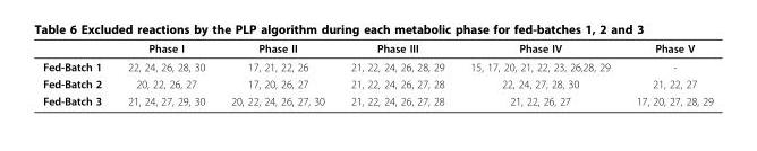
<table><thead><tr><td></td><td>Phase I</td><td>Phase II</td><td>Phase III</td><td>Phase IV</td><td>Phase V</td></tr></thead><tbody><tr><td>Fed-Batch 1</td><td>22, 24, 26, 28, 30</td><td>17, 21, 22, 26</td><td>21, 22, 24, 26, 28, 29</td><td>15, 17, 20, 21, 22, 23, 26,28, 29</td><td>-</td></tr><tr><td>Fed-Batch 2</td><td>20, 22, 26, 27</td><td>17, 20, 26, 27</td><td>21, 22, 24, 26, 27, 28</td><td>22, 24, 27, 28, 30</td><td>21, 22, 27</td></tr><tr><td>Fed-Batch 3</td><td>21, 24, 27, 29, 30</td><td>20, 22, 24, 26, 27, 30</td><td>21, 22, 24, 26, 27, 28</td><td>21, 22, 26, 27</td><td>17, 20, 27, 28, 29</td></tr></tbody></table>